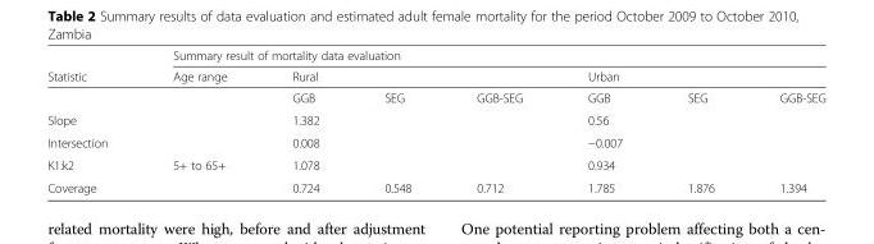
<table><thead><tr><td rowspan="3">Statistic</td><td colspan="7">Summary result of mortality data evaluation</td></tr><tr><td rowspan="2">Age range</td><td colspan="2">Rural</td><td rowspan="2">GGB-SEG</td><td colspan="2">Urban</td><td rowspan="2">GGB-SEG</td></tr><tr><td>GGB</td><td>SEG</td><td>GGB</td><td>SEG</td></tr></thead><tbody><tr><td>Slope</td><td rowspan="2"></td><td>1.382</td><td></td><td></td><td>0.56</td><td></td><td></td></tr><tr><td>Intersection</td><td>0.008</td><td></td><td></td><td>−0.007</td><td></td><td></td></tr><tr><td>K1:k2</td><td rowspan="2">5+ to 65+</td><td>1.078</td><td></td><td></td><td>0.934</td><td></td><td></td></tr><tr><td>Coverage</td><td>0.724</td><td>0.548</td><td>0.712</td><td>1.785</td><td>1.876</td><td>1.394</td></tr></tbody></table>